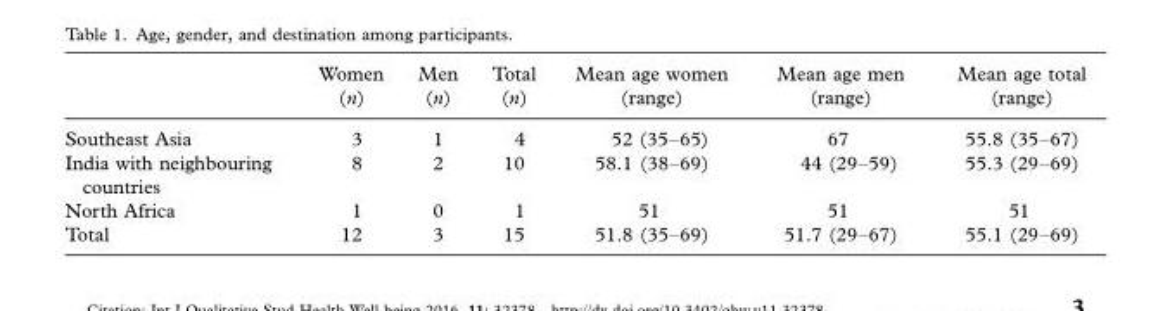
<table><thead><tr><td></td><td>Women (n)</td><td>Men (n)</td><td>Total (n)</td><td>Mean age women (range)</td><td>Mean age men (range)</td><td>Mean age total (range)</td></tr></thead><tbody><tr><td>Southeast Asia</td><td>3</td><td>1</td><td>4</td><td>52 (35–65)</td><td>67</td><td>55.8 (35–67)</td></tr><tr><td>India with neighbouring countries</td><td>8</td><td>2</td><td>10</td><td>58.1 (38–69)</td><td>44 (29–59)</td><td>55.3 (29–69)</td></tr><tr><td>North Africa</td><td>1</td><td>0</td><td>1</td><td>51</td><td>51</td><td>51</td></tr><tr><td>Total</td><td>12</td><td>3</td><td>15</td><td>51.8 (35–69)</td><td>51.7 (29–67)</td><td>55.1 (29–69)</td></tr></tbody></table>